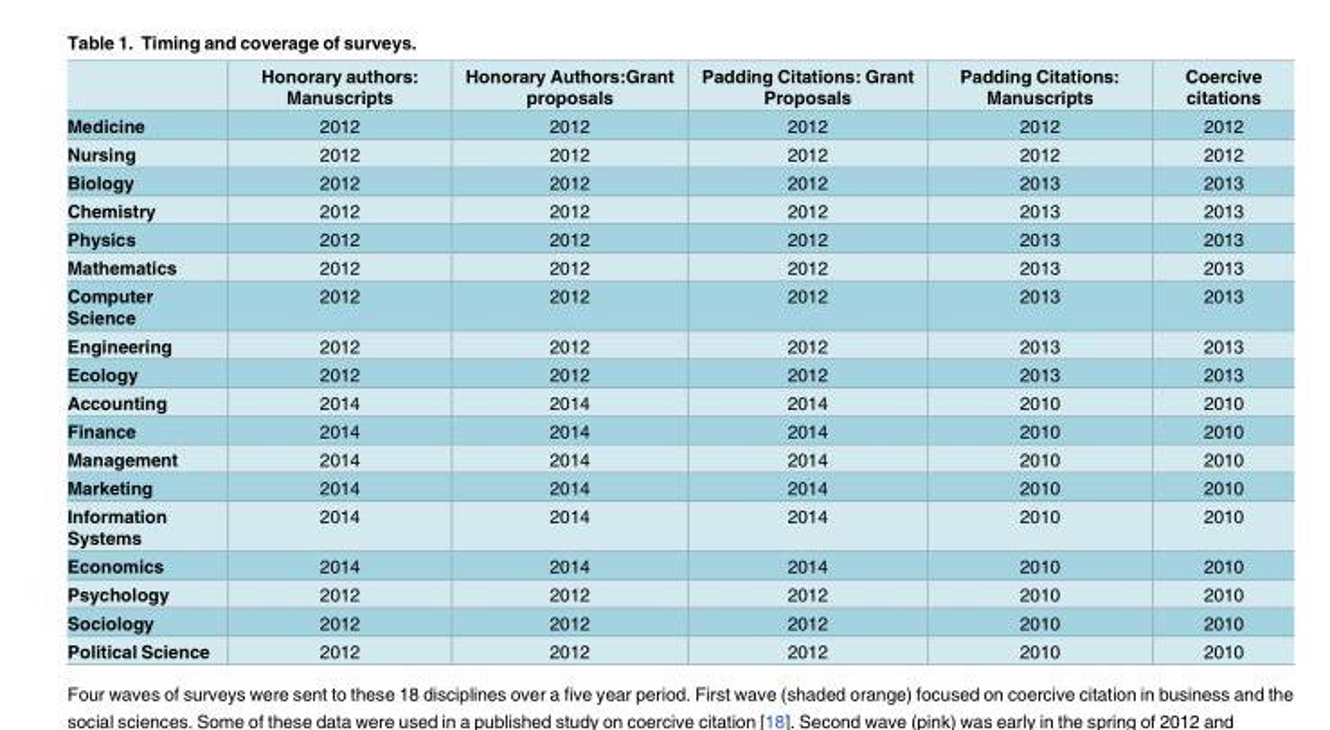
<table><thead><tr><td></td><td>Honorary authors: Manuscripts</td><td>Honorary Authors:Grant proposals</td><td>Padding Citations: Grant Proposals</td><td>Padding Citations: Manuscripts</td><td>Coercive citations</td></tr></thead><tbody><tr><td>Medicine</td><td>2012</td><td>2012</td><td>2012</td><td>2012</td><td>2012</td></tr><tr><td>Nursing</td><td>2012</td><td>2012</td><td>2012</td><td>2012</td><td>2012</td></tr><tr><td>Biology</td><td>2012</td><td>2012</td><td>2012</td><td>2013</td><td>2013</td></tr><tr><td>Chemistry</td><td>2012</td><td>2012</td><td>2012</td><td>2013</td><td>2013</td></tr><tr><td>Physics</td><td>2012</td><td>2012</td><td>2012</td><td>2013</td><td>2013</td></tr><tr><td>Mathematics</td><td>2012</td><td>2012</td><td>2012</td><td>2013</td><td>2013</td></tr><tr><td>Computer Science</td><td>2012</td><td>2012</td><td>2012</td><td>2013</td><td>2013</td></tr><tr><td>Engineering</td><td>2012</td><td>2012</td><td>2012</td><td>2013</td><td>2013</td></tr><tr><td>Ecology</td><td>2012</td><td>2012</td><td>2012</td><td>2013</td><td>2013</td></tr><tr><td>Accounting</td><td>2014</td><td>2014</td><td>2014</td><td>2010</td><td>2010</td></tr><tr><td>Finance</td><td>2014</td><td>2014</td><td>2014</td><td>2010</td><td>2010</td></tr><tr><td>Management</td><td>2014</td><td>2014</td><td>2014</td><td>2010</td><td>2010</td></tr><tr><td>Marketing</td><td>2014</td><td>2014</td><td>2014</td><td>2010</td><td>2010</td></tr><tr><td>Information Systems</td><td>2014</td><td>2014</td><td>2014</td><td>2010</td><td>2010</td></tr><tr><td>Economics</td><td>2014</td><td>2014</td><td>2014</td><td>2010</td><td>2010</td></tr><tr><td>Psychology</td><td>2012</td><td>2012</td><td>2012</td><td>2010</td><td>2010</td></tr><tr><td>Sociology</td><td>2012</td><td>2012</td><td>2012</td><td>2010</td><td>2010</td></tr><tr><td>Political Science</td><td>2012</td><td>2012</td><td>2012</td><td>2010</td><td>2010</td></tr></tbody></table>